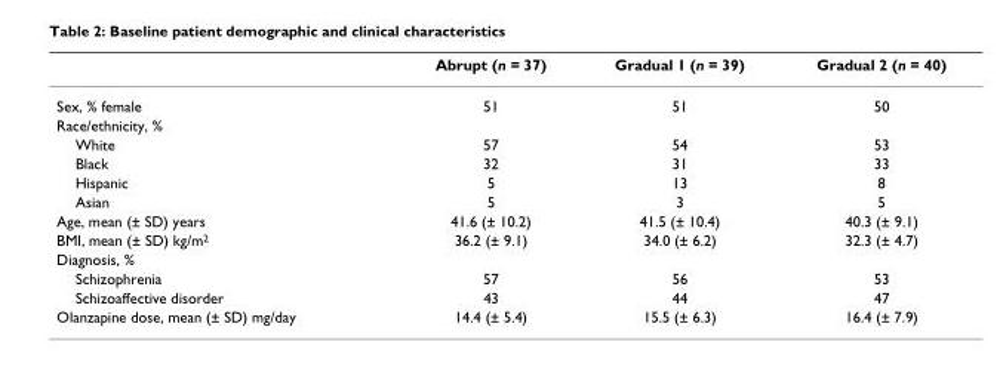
<table><thead><tr><td></td><td>Abrupt (n = 37)</td><td>Gradual 1 (n = 39)</td><td>Gradual 2 (n = 40)</td></tr></thead><tbody><tr><td>Sex, % female</td><td>51</td><td>51</td><td>50</td></tr><tr><td colspan="4">Race/ethnicity, %</td></tr><tr><td>White</td><td>57</td><td>54</td><td>53</td></tr><tr><td>Black</td><td>32</td><td>31</td><td>33</td></tr><tr><td>Hispanic</td><td>5</td><td>13</td><td>8</td></tr><tr><td>Asian</td><td>5</td><td>3</td><td>5</td></tr><tr><td>Age, mean (± SD) years</td><td>41.6 (± 10.2)</td><td>41.5 (± 10.4)</td><td>40.3 (± 9.1)</td></tr><tr><td>BMI, mean (± SD) kg/m<sup>2</sup></td><td>36.2 (± 9.1)</td><td>34.0 (± 6.2)</td><td>32.3 (± 4.7)</td></tr><tr><td colspan="4">Diagnosis, %</td></tr><tr><td>Schizophrenia</td><td>57</td><td>56</td><td>53</td></tr><tr><td>Schizoaffective disorder</td><td>43</td><td>44</td><td>47</td></tr><tr><td>Olanzapine dose, mean (± SD) mg/day</td><td>14.4 (± 5.4)</td><td>15.5 (± 6.3)</td><td>16.4 (± 7.9)</td></tr></tbody></table>